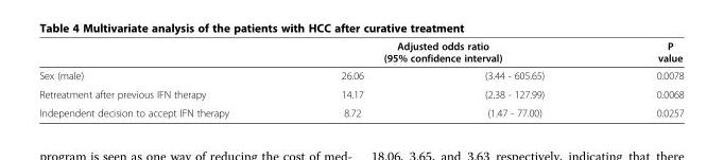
<table><thead><tr><td rowspan="2">Sex (male)</td><td colspan="2">Adjusted odds ratio (95% confidence interval)</td><td rowspan="2">P value 0.0078</td></tr><tr><td>26.06</td><td>(3.44 - 605.65)</td></tr></thead><tbody><tr><td>Retreatment after previous IFN therapy</td><td>14.17</td><td>(2.38 - 127.99)</td><td>0.0068</td></tr><tr><td>Independent decision to accept IFN therapy</td><td>8.72</td><td>(1.47 - 77.00)</td><td>0.0257</td></tr></tbody></table>